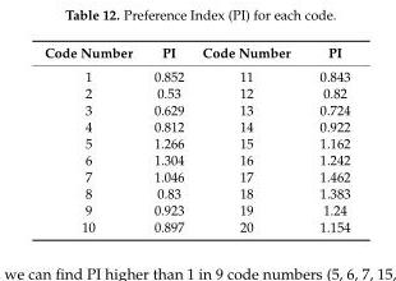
<table><thead><tr><td>Code Number</td><td>PI</td><td>Code Number</td><td>PI</td></tr></thead><tbody><tr><td>1</td><td>0.852</td><td>11</td><td>0.843</td></tr><tr><td>2</td><td>0.53</td><td>12</td><td>0.82</td></tr><tr><td>3</td><td>0.629</td><td>13</td><td>0.724</td></tr><tr><td>4</td><td>0.812</td><td>14</td><td>0.922</td></tr><tr><td>5</td><td>1.266</td><td>15</td><td>1.162</td></tr><tr><td>6</td><td>1.304</td><td>16</td><td>1.242</td></tr><tr><td>7</td><td>1.046</td><td>17</td><td>1.462</td></tr><tr><td>8</td><td>0.83</td><td>18</td><td>1.383</td></tr><tr><td>9</td><td>0.923</td><td>19</td><td>1.24</td></tr><tr><td>10</td><td>0.897</td><td>20</td><td>1.154</td></tr></tbody></table>